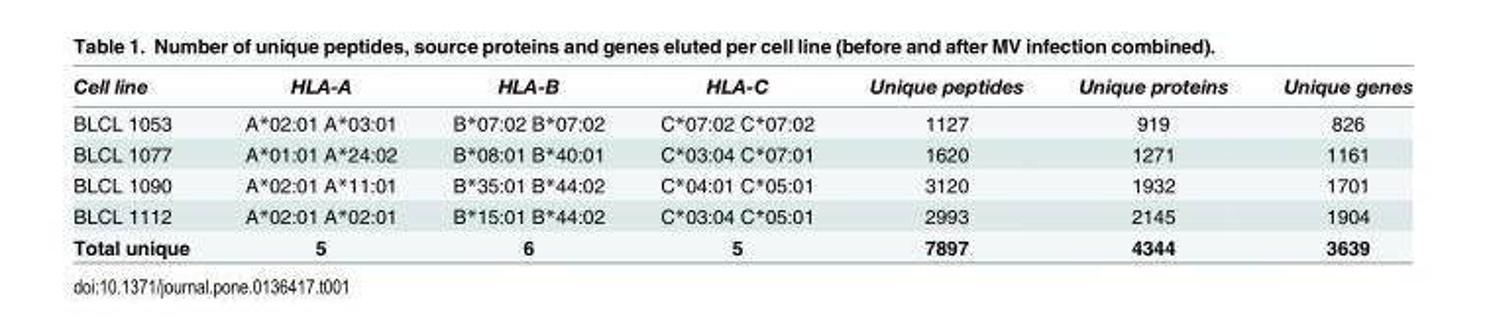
<table><thead><tr><td>Cell line</td><td>HLA-A</td><td>HLA-B</td><td>HLA-C</td><td>Unique peptides</td><td>Unique proteins</td><td>Unique genes</td></tr></thead><tbody><tr><td>BLCL 1053</td><td>A*02:01 A*03:01</td><td>B*07:02 B*07:02</td><td>C*07:02 C*07:02</td><td>1127</td><td>919</td><td>826</td></tr><tr><td>BLCL 1077</td><td>A*01:01 A*24:02</td><td>B*08:01 B*40:01</td><td>C*03:04 C*07:01</td><td>1620</td><td>1271</td><td>1161</td></tr><tr><td>BLCL 1090</td><td>A*02:01 A*11:01</td><td>B*35:01 B*44:02</td><td>C*04:01 C*05:01</td><td>3120</td><td>1932</td><td>1701</td></tr><tr><td>BLCL 1112</td><td>A*02:01 A*02:01</td><td>B*15:01 B*44:02</td><td>C*03:04 C*05:01</td><td>2993</td><td>2145</td><td>1904</td></tr><tr><td>Total unique</td><td>5</td><td>6</td><td>5</td><td>7897</td><td>4344</td><td>3639</td></tr></tbody></table>